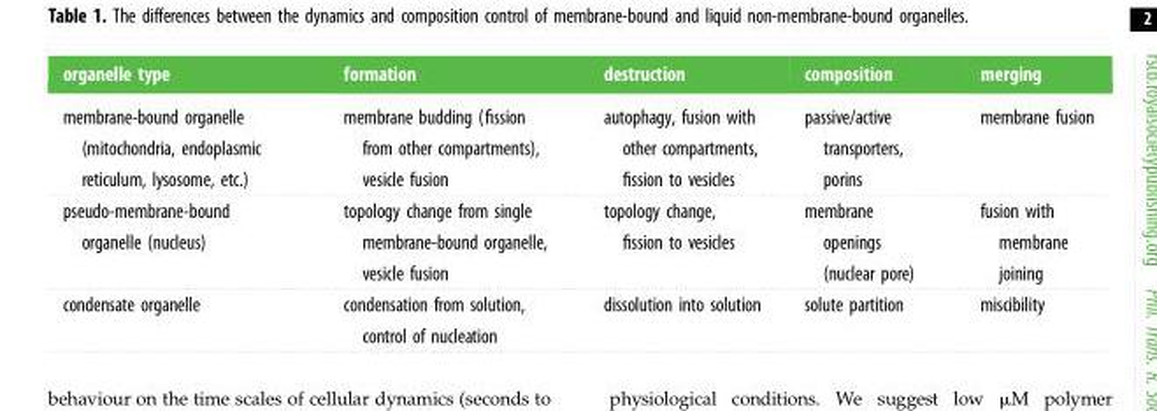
<table><thead><tr><td>organelle type</td><td>formation</td><td>destruction</td><td>composition</td><td>merging</td></tr></thead><tbody><tr><td>membrane-bound organelle (mitochondria, endoplasmic reticulum, lysosome, etc.)</td><td>membrane budding (fission from other compartments), vesicle fusion</td><td>autophagy, fusion with other compartments, fission to vesicles</td><td>passive/active transporters, porins</td><td>membrane fusion</td></tr><tr><td>pseudo-membrane-bound organelle (nucleus)</td><td>topology change from single membrane-bound organelle, vesicle fusion</td><td>topology change, fission to vesicles</td><td>membrane openings (nuclear pore)</td><td>fusion with membrane joining</td></tr><tr><td>condensate organelle</td><td>condensation from solution, control of nucleation</td><td>dissolution into solution</td><td>solute partition</td><td>miscibility</td></tr></tbody></table>